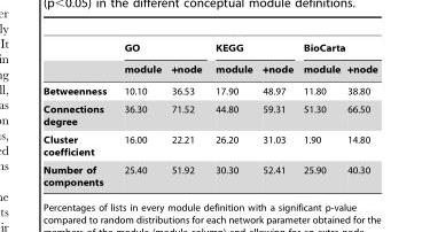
<table><thead><tr><td rowspan="2"></td><td colspan="2">GO</td><td colspan="2">KEGG</td><td colspan="2">BioCarta</td></tr><tr><td>module</td><td>+node</td><td>module</td><td>+node</td><td>module</td><td>+node</td></tr></thead><tbody><tr><td>Betweenness</td><td>10.10</td><td>36.53</td><td>17.90</td><td>48.97</td><td>11.80</td><td>38.80</td></tr><tr><td>Connections degree</td><td>36.30</td><td>71.52</td><td>44.80</td><td>59.31</td><td>51.30</td><td>66.50</td></tr><tr><td>Cluster coefficient</td><td>16.00</td><td>22.21</td><td>26.20</td><td>31.03</td><td>1.90</td><td>14.80</td></tr><tr><td>Number of components</td><td>25.40</td><td>51.92</td><td>30.30</td><td>52.41</td><td>25.90</td><td>40.30</td></tr></tbody></table>